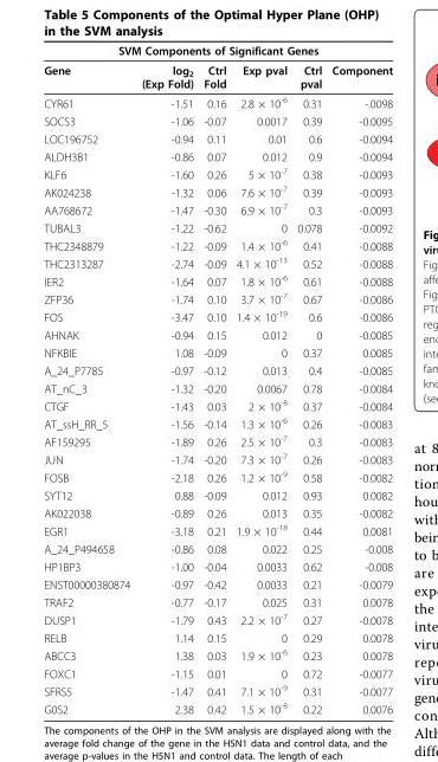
<table><thead><tr><td colspan="6">SVM Components of Significant Genes</td></tr><tr><td>Gene</td><td>log<sub>2</sub> (Exp Fold)</td><td>Ctrl Fold</td><td>Exp pval</td><td>Ctrl pval</td><td>Component</td></tr></thead><tbody><tr><td>CYR61</td><td>-1.51</td><td>0.16</td><td>2.8 × 10<sup>-6</sup></td><td>0.31</td><td>-.0098</td></tr><tr><td>SOCS3</td><td>-1.06</td><td>-0.07</td><td>0.0017</td><td>0.39</td><td>-0.0095</td></tr><tr><td>LOC196752</td><td>-0.94</td><td>0.11</td><td>0.01</td><td>0.6</td><td>-0.0094</td></tr><tr><td>ALDH3B1</td><td>-0.86</td><td>0.07</td><td>0.012</td><td>0.9</td><td>-0.0094</td></tr><tr><td>KLF6</td><td>-1.60</td><td>0.26</td><td>5 × 10<sup>-7</sup></td><td>0.38</td><td>-0.0093</td></tr><tr><td>AK024238</td><td>-1.32</td><td>0.06</td><td>7.6 × 10<sup>-7</sup></td><td>0.39</td><td>-0.0093</td></tr><tr><td>AA768672</td><td>-1.47</td><td>-0.30</td><td>6.9 × 10<sup>-7</sup></td><td>0.3</td><td>-0.0093</td></tr><tr><td>TUBAL3</td><td>-1.22</td><td>-0.62</td><td>0</td><td>0.078</td><td>-0.0092</td></tr><tr><td>THC2348879</td><td>-1.22</td><td>-0.09</td><td>1.4 × 10<sup>-6</sup></td><td>0.41</td><td>-0.0088</td></tr><tr><td>THC2313287</td><td>-2.74</td><td>-0.09</td><td>4.1 × 10<sup>-13</sup></td><td>0.52</td><td>-0.0088</td></tr><tr><td>IER2</td><td>-1.64</td><td>0.07</td><td>1.8 × 10<sup>-6</sup></td><td>0.61</td><td>-0.0088</td></tr><tr><td>ZFP36</td><td>-1.74</td><td>0.10</td><td>3.7 × 10<sup>-7</sup></td><td>0.67</td><td>-0.0086</td></tr><tr><td>FOS</td><td>-3.47</td><td>0.10</td><td>1.4 × 10<sup>-19</sup></td><td>0.6</td><td>-0.0086</td></tr><tr><td>AHNAK</td><td>-0.94</td><td>0.15</td><td>0.012</td><td>0</td><td>-0.0085</td></tr><tr><td>NFKBIE</td><td>1.08</td><td>-0.09</td><td>0</td><td>0.37</td><td>0.0085</td></tr><tr><td>A_24_P7785</td><td>-0.97</td><td>-0.12</td><td>0.013</td><td>0.4</td><td>-0.0085</td></tr><tr><td>AT_nC_3</td><td>-1.32</td><td>-0.20</td><td>0.0067</td><td>0.78</td><td>-0.0084</td></tr><tr><td>CTGF</td><td>-1.43</td><td>0.03</td><td>2 × 10<sup>-8</sup></td><td>0.37</td><td>-0.0084</td></tr><tr><td>AT_ssH_RR_5</td><td>-1.56</td><td>-0.14</td><td>1.3 × 10<sup>-6</sup></td><td>0.26</td><td>-0.0083</td></tr><tr><td>AF159295</td><td>-1.89</td><td>0.26</td><td>2.5 × 10<sup>-7</sup></td><td>0.3</td><td>-0.0083</td></tr><tr><td>JUN</td><td>-1.74</td><td>-0.20</td><td>7.3 × 10<sup>-7</sup></td><td>0.26</td><td>-0.0083</td></tr><tr><td>FOSB</td><td>-2.18</td><td>0.26</td><td>1.2 × 10<sup>-9</sup></td><td>0.58</td><td>-0.0082</td></tr><tr><td>SYT12</td><td>0.88</td><td>-0.09</td><td>0.012</td><td>0.93</td><td>0.0082</td></tr><tr><td>AK022038</td><td>-0.89</td><td>0.26</td><td>0.013</td><td>0.35</td><td>-0.0082</td></tr><tr><td>EGR1</td><td>-3.18</td><td>0.21</td><td>1.9 × 10<sup>-18</sup></td><td>0.44</td><td>0.0081</td></tr><tr><td>A_24_P494658</td><td>-0.86</td><td>0.08</td><td>0.022</td><td>0.25</td><td>-0.008</td></tr><tr><td>HP1BP3</td><td>-1.00</td><td>-0.04</td><td>0.0033</td><td>0.62</td><td>-0.008</td></tr><tr><td>ENST00000380874</td><td>-0.97</td><td>-0.42</td><td>0.0033</td><td>0.21</td><td>-0.0079</td></tr><tr><td>TRAF2</td><td>-0.77</td><td>-0.17</td><td>0.025</td><td>0.31</td><td>0.0078</td></tr><tr><td>DUSP1</td><td>-1.79</td><td>0.43</td><td>2.2 × 10<sup>-7</sup></td><td>0.27</td><td>-0.0078</td></tr><tr><td>RELB</td><td>1.14</td><td>0.15</td><td>0</td><td>0.29</td><td>0.0078</td></tr><tr><td>ABCC3</td><td>1.38</td><td>0.03</td><td>1.9 × 10<sup>-6</sup></td><td>0.23</td><td>0.0078</td></tr><tr><td>FOXC1</td><td>-1.15</td><td>0.01</td><td>0</td><td>0.72</td><td>-0.0077</td></tr><tr><td>SFRS5</td><td>-1.47</td><td>0.41</td><td>7.1 × 10<sup>-9</sup></td><td>0.31</td><td>-0.0077</td></tr><tr><td>G0S2</td><td>2.38</td><td>0.42</td><td>1.5 × 10<sup>-8</sup></td><td>0.22</td><td>0.0076</td></tr></tbody></table>